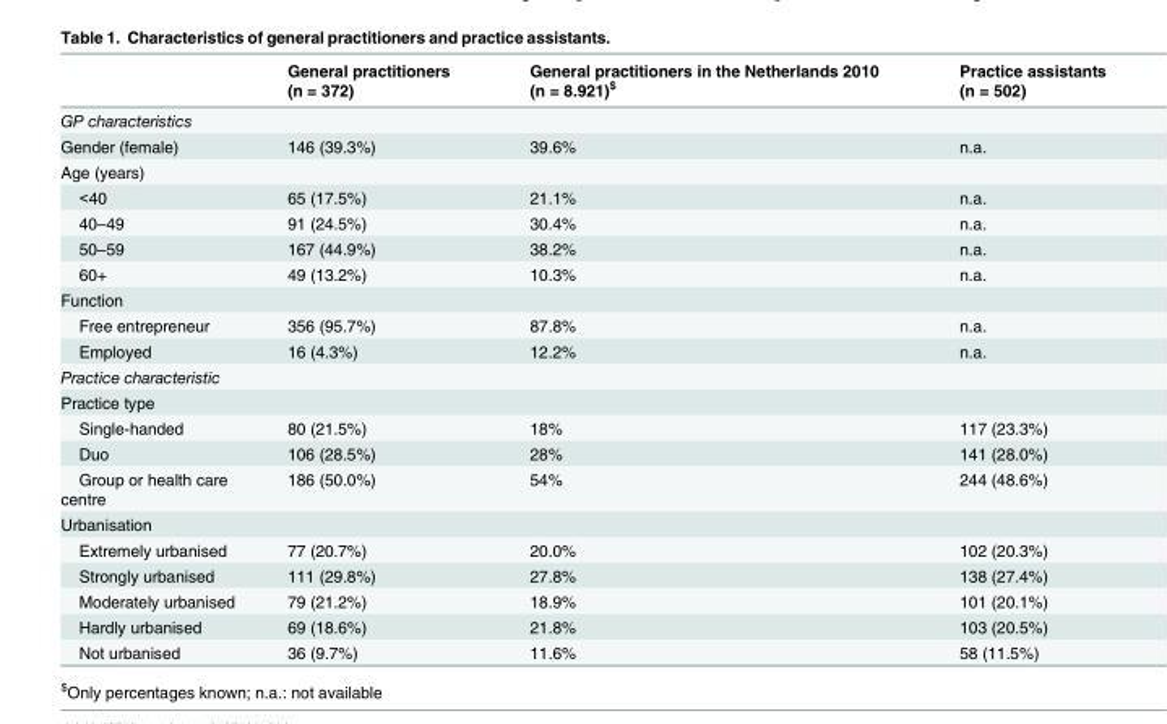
<table><thead><tr><td></td><td>General practitioners (n = 372)</td><td>General practitioners in the Netherlands 2010 (n = 8.921)<sup>$</sup></td><td>Practice assistants (n = 502)</td></tr></thead><tbody><tr><td colspan="4">GP characteristics</td></tr><tr><td>Gender (female)</td><td>146 (39.3%)</td><td>39.6%</td><td>n.a.</td></tr><tr><td colspan="4">Age (years)</td></tr><tr><td>&lt;40</td><td>65 (17.5%)</td><td>21.1%</td><td>n.a.</td></tr><tr><td>40–49</td><td>91 (24.5%)</td><td>30.4%</td><td>n.a.</td></tr><tr><td>50–59</td><td>167 (44.9%)</td><td>38.2%</td><td>n.a.</td></tr><tr><td>60+</td><td>49 (13.2%)</td><td>10.3%</td><td>n.a.</td></tr><tr><td colspan="4">Function</td></tr><tr><td>Free entrepreneur</td><td>356 (95.7%)</td><td>87.8%</td><td>n.a.</td></tr><tr><td>Employed</td><td>16 (4.3%)</td><td>12.2%</td><td>n.a.</td></tr><tr><td colspan="4">Practice characteristic</td></tr><tr><td colspan="4">Practice type</td></tr><tr><td>Single-handed</td><td>80 (21.5%)</td><td>18%</td><td>117 (23.3%)</td></tr><tr><td>Duo</td><td>106 (28.5%)</td><td>28%</td><td>141 (28.0%)</td></tr><tr><td>Group or health care centre</td><td>186 (50.0%)</td><td>54%</td><td>244 (48.6%)</td></tr><tr><td colspan="4">Urbanisation</td></tr><tr><td>Extremely urbanised</td><td>77 (20.7%)</td><td>20.0%</td><td>102 (20.3%)</td></tr><tr><td>Strongly urbanised</td><td>111 (29.8%)</td><td>27.8%</td><td>138 (27.4%)</td></tr><tr><td>Moderately urbanised</td><td>79 (21.2%)</td><td>18.9%</td><td>101 (20.1%)</td></tr><tr><td>Hardly urbanised</td><td>69 (18.6%)</td><td>21.8%</td><td>103 (20.5%)</td></tr><tr><td>Not urbanised</td><td>36 (9.7%)</td><td>11.6%</td><td>58 (11.5%)</td></tr></tbody></table>